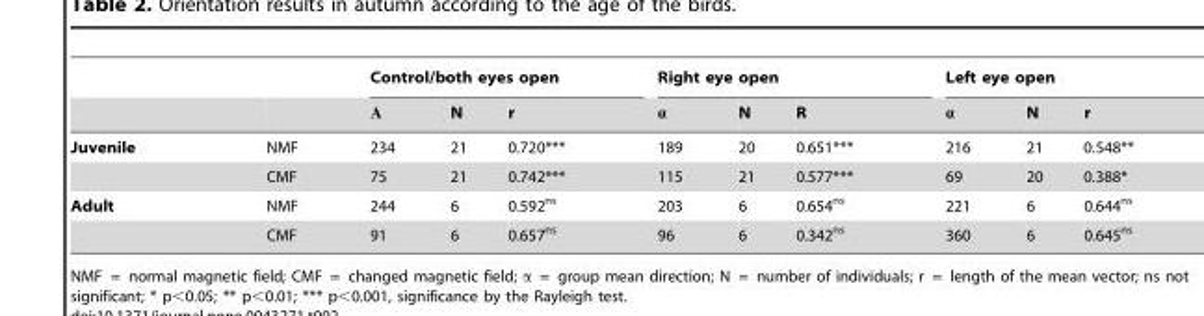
<table><thead><tr><td rowspan="2"></td><td rowspan="2"></td><td colspan="3">Control/both eyes open</td><td colspan="3">Right eye open</td><td colspan="3">Left eye open</td></tr><tr><td>A</td><td>N</td><td>r</td><td>α</td><td>N</td><td>R</td><td>α</td><td>N</td><td>r</td></tr></thead><tbody><tr><td rowspan="2">Juvenile</td><td>NMF</td><td>234</td><td>21</td><td>0.720***</td><td>189</td><td>20</td><td>0.651***</td><td>216</td><td>21</td><td>0.548**</td></tr><tr><td>CMF</td><td>75</td><td>21</td><td>0.742***</td><td>115</td><td>21</td><td>0.577***</td><td>69</td><td>20</td><td>0.388*</td></tr><tr><td rowspan="2">Adult</td><td>NMF</td><td>244</td><td>6</td><td>0.592<sup>ns</sup></td><td>203</td><td>6</td><td>0.654<sup>ns</sup></td><td>221</td><td>6</td><td>0.644<sup>ns</sup></td></tr><tr><td>CMF</td><td>91</td><td>6</td><td>0.657<sup>ns</sup></td><td>96</td><td>6</td><td>0.342<sup>ns</sup></td><td>360</td><td>6</td><td>0.645<sup>ns</sup></td></tr></tbody></table>